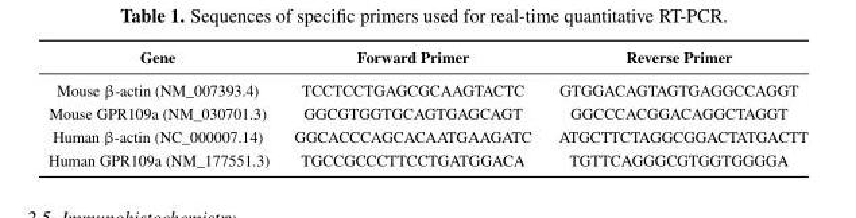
<table><thead><tr><td>Gene</td><td>Forward Primer</td><td>Reverse Primer</td></tr></thead><tbody><tr><td>Mouse β-actin (NM_007393.4)</td><td>TCCTCCTGAGCGCAAGTACTC</td><td>GTGGACAGTAGTGAGGCCAGGT</td></tr><tr><td>Mouse GPR109a (NM_030701.3)</td><td>GGCGTGGTGCAGTGAGCAGT</td><td>GGCCCACGGACAGGCTAGGT</td></tr><tr><td>Human β-actin (NC_000007.14)</td><td>GGCACCCAGCACAATGAAGATC</td><td>ATGCTTCTAGGCGGACTATGACTT</td></tr><tr><td>Human GPR109a (NM_177551.3)</td><td>TGCCGCCCTTCCTGATGGACA</td><td>TGTTCAGGGCGTGGTGGGGA</td></tr></tbody></table>